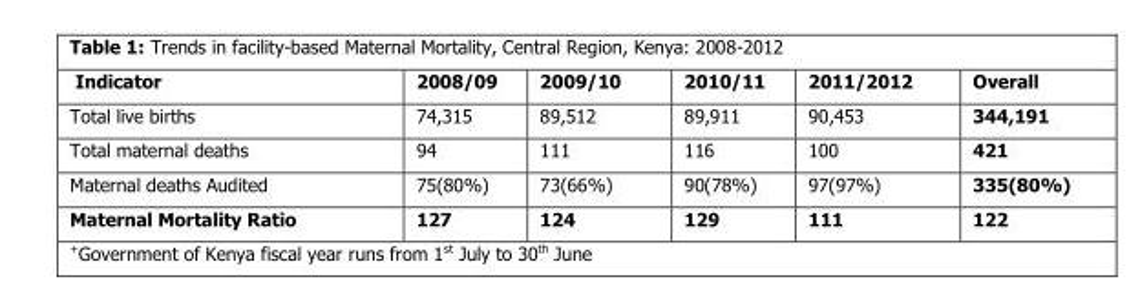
<table><thead><tr><td>Indicator</td><td>2008/09</td><td>2009/10</td><td>2010/11</td><td>2011/2012</td><td>Overall</td></tr></thead><tbody><tr><td>Total live births</td><td>74,315</td><td>89,512</td><td>89,911</td><td>90,453</td><td>344,191</td></tr><tr><td>Total maternal deaths</td><td>94</td><td>111</td><td>116</td><td>100</td><td>421</td></tr><tr><td>Maternal deaths Audited</td><td>75(80%)</td><td>73(66%)</td><td>90(78%)</td><td>97(97%)</td><td>335(80%)</td></tr><tr><td>Maternal Mortality Ratio</td><td>127</td><td>124</td><td>129</td><td>111</td><td>122</td></tr></tbody></table>